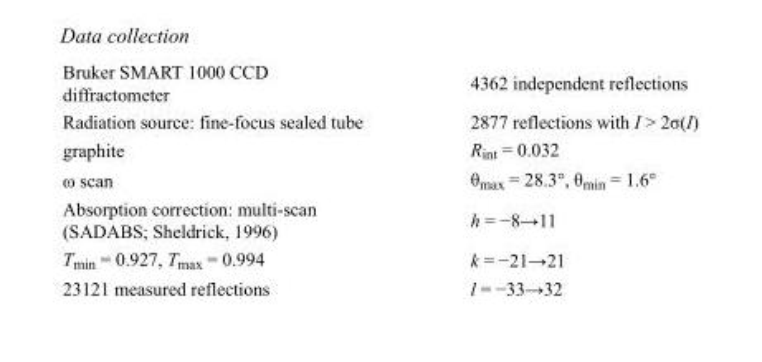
<table><tbody><tr><td>Bruker SMART 1000 CCD diffractometer</td><td>4362 independent reflections</td></tr><tr><td>Radiation source: fine-focus sealed tube</td><td>2877 reflections with I &gt; 2σ(I)</td></tr><tr><td>graphite</td><td>R<sub>int</sub> = 0.032</td></tr><tr><td>ω scan</td><td>θ<sub>max</sub> = 28.3°, θ<sub>min</sub> = 1.6°</td></tr><tr><td>Absorption correction: multi-scan (SADABS; Sheldrick, 1996)</td><td>h = −8→11</td></tr><tr><td>T<sub>min</sub> = 0.927, T<sub>max</sub> = 0.994</td><td>k = −21→21</td></tr><tr><td>23121 measured reflections</td><td>l = −33→32</td></tr></tbody></table>